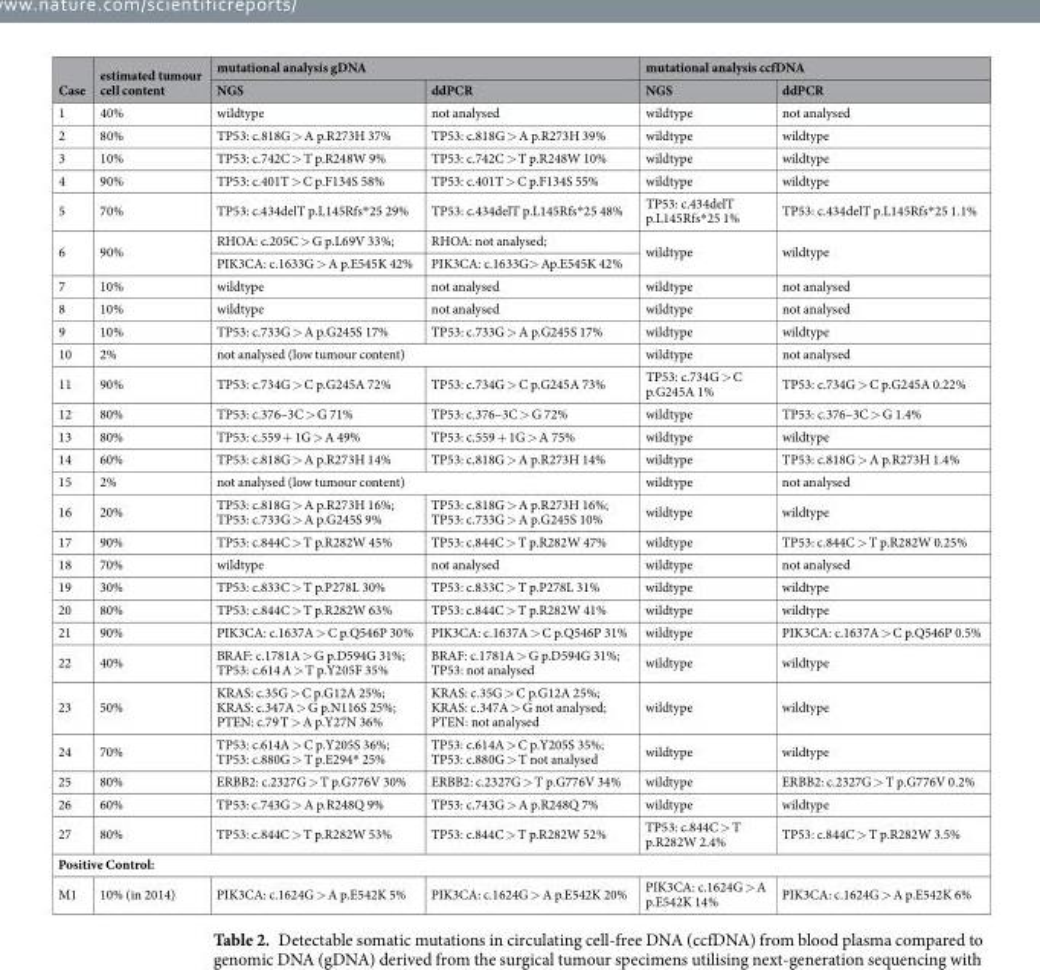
<table><thead><tr><td rowspan="2">Case</td><td rowspan="2">estimated tumour cell content</td><td colspan="2">mutational analysis gDNA</td><td colspan="2">mutational analysis ccfDNA</td></tr><tr><td>NGS</td><td>ddPCR</td><td>NGS</td><td>ddPCR</td></tr></thead><tbody><tr><td>1</td><td>40%</td><td>wildtype</td><td>not analysed</td><td>wildtype</td><td>not analysed</td></tr><tr><td>2</td><td>80%</td><td>TP53: c.818G &gt; A p.R273H 37%</td><td>TP53: c.818G &gt; A p.R273H 39%</td><td>wildtype</td><td>wildtype</td></tr><tr><td>3</td><td>10%</td><td>TP53: c.742C &gt; T p.R248W 9%</td><td>TP53: c.742C &gt; T p.R248W 10%</td><td>wildtype</td><td>wildtype</td></tr><tr><td>4</td><td>90%</td><td>TP53: c.401T &gt; C p.F134S 58%</td><td>TP53: c.401T &gt; C p.F134S 55%</td><td>wildtype</td><td>wildtype</td></tr><tr><td>5</td><td>70%</td><td>TP53: c.434delT p.L145Rfs*25 29%</td><td>TP53: c.434delT p.L145Rfs*25 48%</td><td>TP53: c.434delT p.L145Rfs*25 1%</td><td>TP53: c.434delT p.L145Rfs*25 1.1%</td></tr><tr><td rowspan="2">6</td><td rowspan="2">90%</td><td>RHOA: c.205C &gt; G p.L69V 33%;</td><td>RHOA: not analysed;</td><td rowspan="2">wildtype</td><td rowspan="2">wildtype</td></tr><tr><td>PIK3CA: c.1633G &gt; A p.E545K 42%</td><td>PIK3CA: c.1633G&gt; Ap.E545K 42%</td></tr><tr><td>7</td><td>10%</td><td>wildtype</td><td>not analysed</td><td>wildtype</td><td>not analysed</td></tr><tr><td>8</td><td>10%</td><td>wildtype</td><td>not analysed</td><td>wildtype</td><td>not analysed</td></tr><tr><td>9</td><td>10%</td><td>TP53: c.733G &gt; A p.G245S 17%</td><td>TP53: c.733G &gt; A p.G245S 17%</td><td>wildtype</td><td>wildtype</td></tr><tr><td>10</td><td>2%</td><td colspan="2">not analysed (low tumour content)</td><td>wildtype</td><td>not analysed</td></tr><tr><td>11</td><td>90%</td><td>TP53: c.734G &gt; C p.G245A 72%</td><td>TP53: c.734G &gt; C p.G245A 73%</td><td>TP53: c.734G &gt; C p.G245A 1%</td><td>TP53: c.734G &gt; C p.G245A 0.22%</td></tr><tr><td>12</td><td>80%</td><td>TP53: c.376–3C &gt; G 71%</td><td>TP53: c.376–3C &gt; G 72%</td><td>wildtype</td><td>TP53: c.376–3C &gt; G 1.4%</td></tr><tr><td>13</td><td>80%</td><td>TP53: c.559 + 1G &gt; A 49%</td><td>TP53: c.559 + 1G &gt; A 75%</td><td>wildtype</td><td>wildtype</td></tr><tr><td>14</td><td>60%</td><td>TP53: c.818G &gt; A p.R273H 14%</td><td>TP53: c.818G &gt; A p.R273H 14%</td><td>wildtype</td><td>TP53: c.818G &gt; A p.R273H 1.4%</td></tr><tr><td>15</td><td>2%</td><td colspan="2">not analysed (low tumour content)</td><td>wildtype</td><td>not analysed</td></tr><tr><td>16</td><td>20%</td><td>TP53: c.818G &gt; A p.R273H 16%; TP53: c.733G &gt; A p.G245S 9%</td><td>TP53: c.818G &gt; A p.R273H 16%; TP53: c.733G &gt; A p.G245S 10%</td><td>wildtype</td><td>wildtype</td></tr><tr><td>17</td><td>90%</td><td>TP53: c.844C &gt; T p.R282W 45%</td><td>TP53: c.844C &gt; T p.R282W 47%</td><td>wildtype</td><td>TP53: c.844C &gt; T p.R282W 0.25%</td></tr><tr><td>18</td><td>70%</td><td>wildtype</td><td>not analysed</td><td>wildtype</td><td>not analysed</td></tr><tr><td>19</td><td>30%</td><td>TP53: c.833C &gt; T p.P278L 30%</td><td>TP53: c.833C &gt; T p.P278L 31%</td><td>wildtype</td><td>wildtype</td></tr><tr><td>20</td><td>80%</td><td>TP53: c.844C &gt; T p.R282W 63%</td><td>TP53: c.844C &gt; T p.R282W 41%</td><td>wildtype</td><td>wildtype</td></tr><tr><td>21</td><td>90%</td><td>PIK3CA: c.1637A &gt; C p.Q546P 30%</td><td>PIK3CA: c.1637A &gt; C p.Q546P 31%</td><td>wildtype</td><td>PIK3CA: c.1637A &gt; C p.Q546P 0.5%</td></tr><tr><td>22</td><td>40%</td><td>BRAF: c.1781A &gt; G p.D594G 31%; TP53: c.614 A &gt; T p.Y205F 35%</td><td>BRAF: c.1781A &gt; G p.D594G 31%; TP53: not analysed</td><td>wildtype</td><td>wildtype</td></tr><tr><td>23</td><td>50%</td><td>KRAS: c.35G &gt; C p.G12A 25%; KRAS: c.347A &gt; G p.N116S 25%; PTEN: c.79 T &gt; A p.Y27N 36%</td><td>KRAS: c.35G &gt; C p.G12A 25%; KRAS: c.347A &gt; G not analysed; PTEN: not analysed</td><td>wildtype</td><td>wildtype</td></tr><tr><td>24</td><td>70%</td><td>TP53: c.614A &gt; C p.Y205S 36%; TP53: c.880G &gt; T p.E294* 25%</td><td>TP53: c.614A &gt; C p.Y205S 35%; TP53: c.880G &gt; T not analysed</td><td>wildtype</td><td>wildtype</td></tr><tr><td>25</td><td>80%</td><td>ERBB2: c.2327G &gt; T p.G776V 30%</td><td>ERBB2: c.2327G &gt; T p.G776V 34%</td><td>wildtype</td><td>ERBB2: c.2327G &gt; T p.G776V 0.2%</td></tr><tr><td>26</td><td>60%</td><td>TP53: c.743G &gt; A p.R248Q 9%</td><td>TP53: c.743G &gt; A p.R248Q 7%</td><td>wildtype</td><td>wildtype</td></tr><tr><td>27</td><td>80%</td><td>TP53: c.844C &gt; T p.R282W 53%</td><td>TP53: c.844C &gt; T p.R282W 52%</td><td>TP53: c.844C &gt; T p.R282W 2.4%</td><td>TP53: c.844C &gt; T p.R282W 3.5%</td></tr><tr><td colspan="6">Positive Control:</td></tr><tr><td>M1</td><td>10% (in 2014)</td><td>PIK3CA: c.1624G &gt; A p.E542K 5%</td><td>PIK3CA: c.1624G &gt; A p.E542K 20%</td><td>PIK3CA: c.1624G &gt; A p.E542K 14%</td><td>PIK3CA: c.1624G &gt; A p.E542K 6%</td></tr></tbody></table>